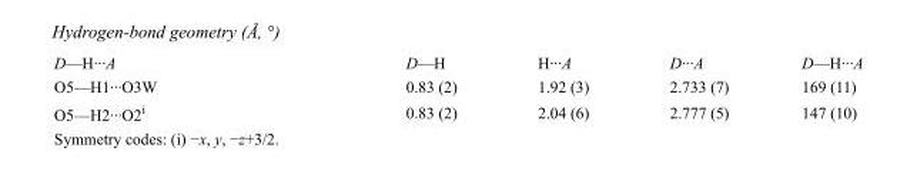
<table><tbody><tr><td>D—H···A</td><td>D—H</td><td>H···A</td><td>D···A</td><td>D—H···A</td></tr><tr><td>O5—H1···O3W</td><td>0.83 (2)</td><td>1.92 (3)</td><td>2.733 (7)</td><td>169 (11)</td></tr><tr><td>O5—H2···O2<sup>i</sup></td><td>0.83 (2)</td><td>2.04 (6)</td><td>2.777 (5)</td><td>147 (10)</td></tr></tbody></table>